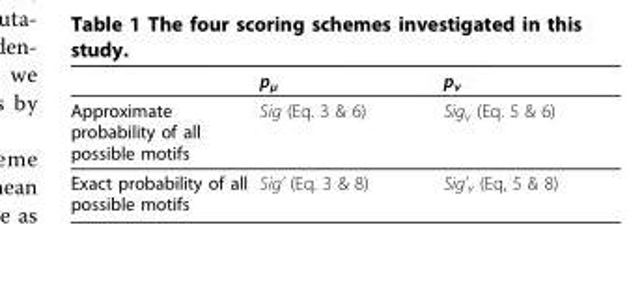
<table><thead><tr><td></td><td>p<sub>μ</sub></td><td>p<sub>v</sub></td></tr></thead><tbody><tr><td>Approximate probability of all possible motifs</td><td>Sig (Eq. 3 &amp; 6)</td><td>Sig<sub>v</sub> (Eq. 5 &amp; 6)</td></tr><tr><td>Exact probability of all possible motifs</td><td>Sig’ (Eq. 3 &amp; 8)</td><td>Sig’<sub>v</sub> (Eq, 5 &amp; 8)</td></tr></tbody></table>